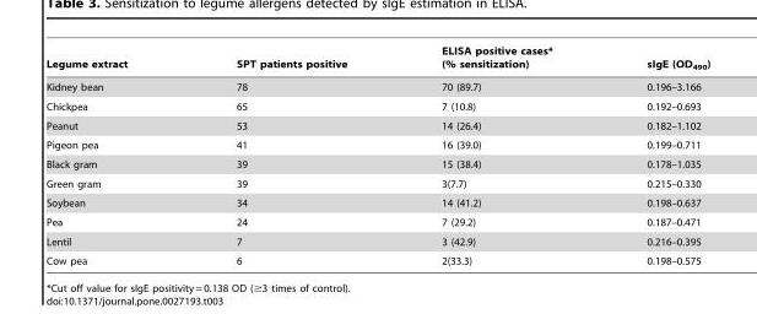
<table><thead><tr><td>Legume extract</td><td>SPT patients positive</td><td>ELISA positive cases* (% sensitization)</td><td>sIgE (OD<sub>490</sub>)</td></tr></thead><tbody><tr><td>Kidney bean</td><td>78</td><td>70 (89.7)</td><td>0.196–3.166</td></tr><tr><td>Chickpea</td><td>65</td><td>7 (10.8)</td><td>0.192–0.693</td></tr><tr><td>Peanut</td><td>53</td><td>14 (26.4)</td><td>0.182–1.102</td></tr><tr><td>Pigeon pea</td><td>41</td><td>16 (39.0)</td><td>0.199–0.711</td></tr><tr><td>Black gram</td><td>39</td><td>15 (38.4)</td><td>0.178–1.035</td></tr><tr><td>Green gram</td><td>39</td><td>3(7.7)</td><td>0.215–0.330</td></tr><tr><td>Soybean</td><td>34</td><td>14 (41.2)</td><td>0.198–0.637</td></tr><tr><td>Pea</td><td>24</td><td>7 (29.2)</td><td>0.187–0.471</td></tr><tr><td>Lentil</td><td>7</td><td>3 (42.9)</td><td>0.216–0.395</td></tr><tr><td>Cow pea</td><td>6</td><td>2(33.3)</td><td>0.198–0.575</td></tr></tbody></table>